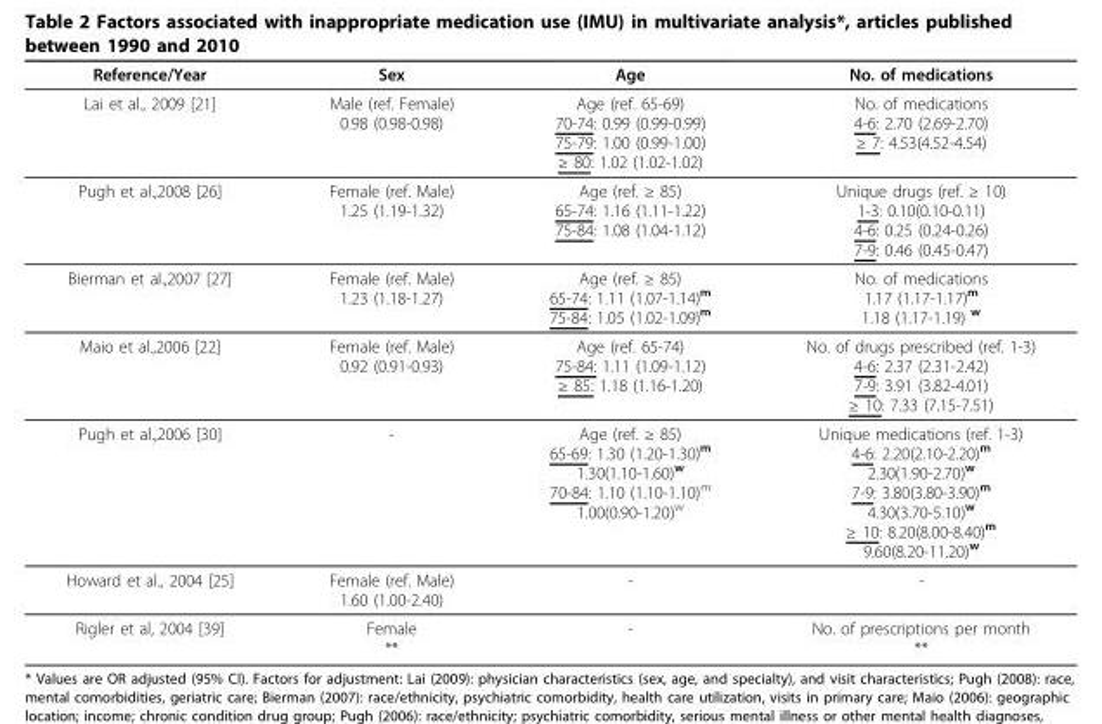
<table><thead><tr><td>Reference/Year</td><td>Sex</td><td>Age</td><td>No. of medications</td></tr></thead><tbody><tr><td>Lai et al., 2009 [21]</td><td>Male (ref. Female) 0.98 (0.98-0.98)</td><td>Age (ref. 65-69) 70-74: 0.99 (0.99-0.99) 75-79: 1.00 (0.99-1.00) ≥ 80: 1.02 (1.02-1.02)</td><td>No. of medications 4-6: 2.70 (2.69-2.70) ≥ 7: 4.53(4.52-4.54)</td></tr><tr><td>Pugh et al.,2008 [26]</td><td>Female (ref. Male) 1.25 (1.19-1.32)</td><td>Age (ref. ≥ 85) 65-74: 1.16 (1.11-1.22) 75-84: 1.08 (1.04-1.12)</td><td>Unique drugs (ref. ≥ 10) 1-3: 0.10(0.10-0.11) 4-6: 0.25 (0.24-0.26) 7-9: 0.46 (0.45-0.47)</td></tr><tr><td>Bierman et al.,2007 [27]</td><td>Female (ref. Male) 1.23 (1.18-1.27)</td><td>Age (ref. ≥ 85) 65-74: 1.11 (1.07-1.14)<sup>m</sup> 75-84: 1.05 (1.02-1.09)<sup>m</sup></td><td>No. of medications 1.17 (1.17-1.17)<sup>m</sup> 1.18 (1.17-1.19) <sup>w</sup></td></tr><tr><td>Maio et al.,2006 [22]</td><td>Female (ref. Male) 0.92 (0.91-0.93)</td><td>Age (ref. 65-74) 75-84: 1.11 (1.09-1.12) ≥ 85: 1.18 (1.16-1.20)</td><td>No. of drugs prescribed (ref. 1-3) 4-6: 2.37 (2.31-2.42) 7-9: 3.91 (3.82-4.01) ≥ 10: 7.33 (7.15-7.51)</td></tr><tr><td>Pugh et al.,2006 [30]</td><td>-</td><td>Age (ref. ≥ 85) 65-69: 1.30 (1.20-1.30)<sup>m</sup> 1.30(1.10-1.60)<sup>w</sup> 70-84: 1.10 (1.10-1.10)<sup>m</sup> 1.00(0.90-1.20)<sup>w</sup></td><td>Unique medications (ref. 1-3) 4-6: 2.20(2.10-2.20)<sup>m</sup> 2.30(1.90-2.70)<sup>w</sup> 7-9: 3.80(3.80-3.90)<sup>m</sup> 4.30(3.70-5.10)<sup>w</sup> ≥ 10: 8.20(8.00-8.40)<sup>m</sup> 9.60(8.20-11.20)<sup>w</sup></td></tr><tr><td>Howard et al., 2004 [25]</td><td>Female (ref. Male) 1.60 (1.00-2.40)</td><td>-</td><td>-</td></tr><tr><td>Rigler et al, 2004 [39]</td><td>Female **</td><td>-</td><td>No. of prescriptions per month **</td></tr></tbody></table>